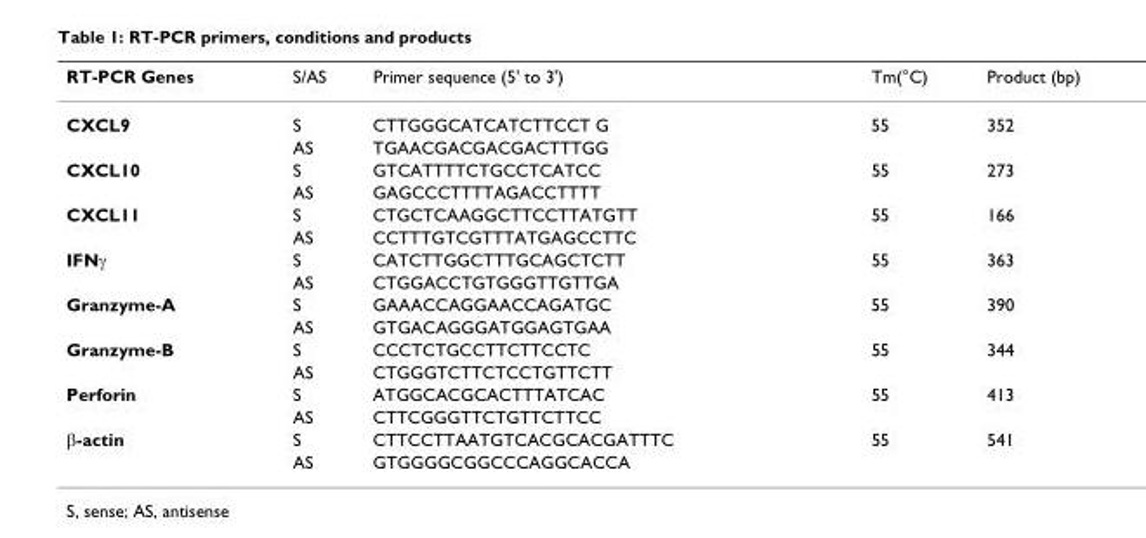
<table><thead><tr><td>RT-PCR Genes</td><td>S/AS</td><td>Primer sequence (5&#x27; to 3&#x27;)</td><td>Tm(°C)</td><td>Product (bp)</td></tr></thead><tbody><tr><td rowspan="2">CXCL9</td><td>S</td><td>CTTGGGCATCATCTTCCT G</td><td>55</td><td>352</td></tr><tr><td>AS</td><td>TGAACGACGACGACTTTGG</td><td></td><td></td></tr><tr><td rowspan="2">CXCL10</td><td>S</td><td>GTCATTTTCTGCCTCATCC</td><td>55</td><td>273</td></tr><tr><td>AS</td><td>GAGCCCTTTTAGACCTTTT</td><td></td><td></td></tr><tr><td rowspan="2">CXCL11</td><td>S</td><td>CTGCTCAAGGCTTCCTTATGTT</td><td>55</td><td>166</td></tr><tr><td>AS</td><td>CCTTTGTCGTTTATGAGCCTTC</td><td></td><td></td></tr><tr><td rowspan="2">IFNγ</td><td>S</td><td>CATCTTGGCTTTGCAGCTCTT</td><td>55</td><td>363</td></tr><tr><td>AS</td><td>CTGGACCTGTGGGTTGTTGA</td><td></td><td></td></tr><tr><td rowspan="2">Granzyme-A</td><td>S</td><td>GAAACCAGGAACCAGATGC</td><td>55</td><td>390</td></tr><tr><td>AS</td><td>GTGACAGGGATGGAGTGAA</td><td></td><td></td></tr><tr><td rowspan="2">Granzyme-B</td><td>S</td><td>CCCTCTGCCTTCTTCCTC</td><td>55</td><td>344</td></tr><tr><td>AS</td><td>CTGGGTCTTCTCCTGTTCTT</td><td></td><td></td></tr><tr><td rowspan="2">Perforin</td><td>S</td><td>ATGGCACGCACTTTATCAC</td><td>55</td><td>413</td></tr><tr><td>AS</td><td>CTTCGGGTTCTGTTCTTCC</td><td></td><td></td></tr><tr><td rowspan="2">β-actin</td><td>S</td><td>CTTCCTTAATGTCACGCACGATTTC</td><td>55</td><td>541</td></tr><tr><td>AS</td><td>GTGGGGCGGCCCAGGCACCA</td><td></td><td></td></tr></tbody></table>